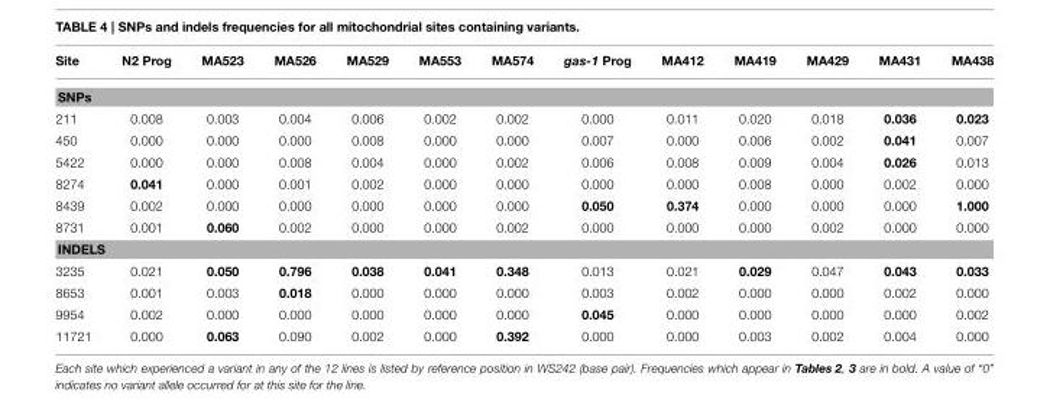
<table><thead><tr><td>Site</td><td>N2 Prog</td><td>MA523</td><td>MA526</td><td>MA529</td><td>MA553</td><td>MA574</td><td>gas-1 Prog</td><td>MA412</td><td>MA419</td><td>MA429</td><td>MA431</td><td>MA438</td></tr></thead><tbody><tr><td colspan="13">SNPs</td></tr><tr><td>211</td><td>0.008</td><td>0.003</td><td>0.004</td><td>0.006</td><td>0.002</td><td>0.002</td><td>0.000</td><td>0.011</td><td>0.020</td><td>0.018</td><td>0.036</td><td>0.023</td></tr><tr><td>450</td><td>0.000</td><td>0.000</td><td>0.000</td><td>0.008</td><td>0.000</td><td>0.000</td><td>0.007</td><td>0.000</td><td>0.006</td><td>0.002</td><td>0.041</td><td>0.007</td></tr><tr><td>5422</td><td>0.000</td><td>0.000</td><td>0.008</td><td>0.004</td><td>0.000</td><td>0.002</td><td>0.006</td><td>0.008</td><td>0.009</td><td>0.004</td><td>0.026</td><td>0.013</td></tr><tr><td>8274</td><td>0.041</td><td>0.000</td><td>0.001</td><td>0.002</td><td>0.000</td><td>0.000</td><td>0.000</td><td>0.000</td><td>0.008</td><td>0.000</td><td>0.002</td><td>0.000</td></tr><tr><td>8439</td><td>0.002</td><td>0.000</td><td>0.000</td><td>0.000</td><td>0.000</td><td>0.000</td><td>0.050</td><td>0.374</td><td>0.000</td><td>0.000</td><td>0.000</td><td>1.000</td></tr><tr><td>8731</td><td>0.001</td><td>0.060</td><td>0.002</td><td>0.000</td><td>0.000</td><td>0.002</td><td>0.000</td><td>0.000</td><td>0.000</td><td>0.002</td><td>0.000</td><td>0.000</td></tr><tr><td colspan="13">INDELS</td></tr><tr><td>3235</td><td>0.021</td><td>0.050</td><td>0.796</td><td>0.038</td><td>0.041</td><td>0.348</td><td>0.013</td><td>0.021</td><td>0.029</td><td>0.047</td><td>0.043</td><td>0.033</td></tr><tr><td>8653</td><td>0.001</td><td>0.003</td><td>0.018</td><td>0.000</td><td>0.000</td><td>0.000</td><td>0.003</td><td>0.002</td><td>0.000</td><td>0.000</td><td>0.002</td><td>0.000</td></tr><tr><td>9954</td><td>0.002</td><td>0.000</td><td>0.000</td><td>0.000</td><td>0.000</td><td>0.000</td><td>0.045</td><td>0.000</td><td>0.000</td><td>0.000</td><td>0.000</td><td>0.002</td></tr><tr><td>11721</td><td>0.000</td><td>0.063</td><td>0.090</td><td>0.002</td><td>0.000</td><td>0.392</td><td>0.000</td><td>0.000</td><td>0.003</td><td>0.002</td><td>0.004</td><td>0.000</td></tr></tbody></table>